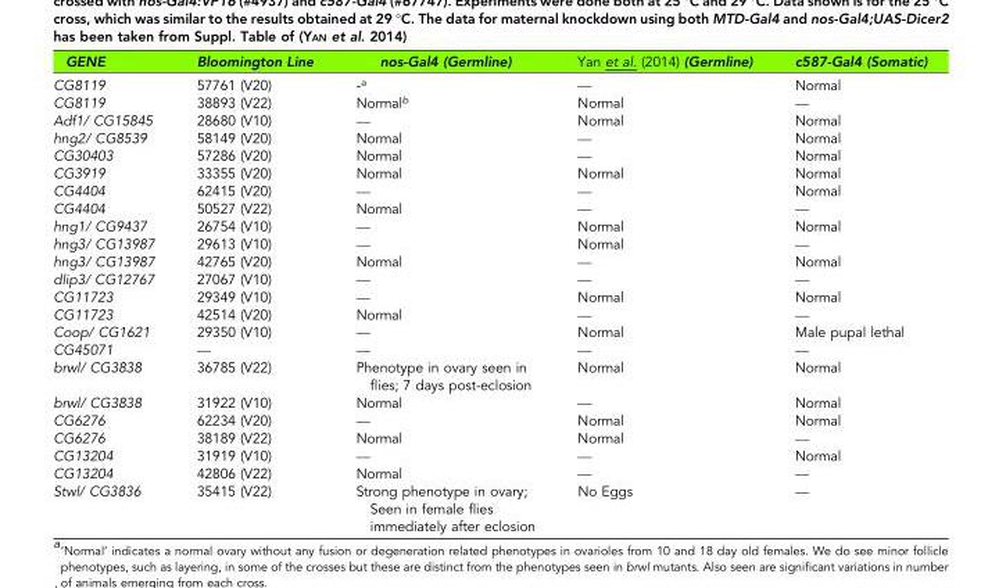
<table><thead><tr><td>GENE</td><td>Bloomington Line</td><td>nos-Gal4 (Germline)</td><td>Yan et al. (2014) (Germline)</td><td>c587-Gal4 (Somatic)</td></tr></thead><tbody><tr><td>CG8119</td><td>57761 (V20)</td><td>-<sup>a</sup></td><td>—</td><td>Normal</td></tr><tr><td>CG8119</td><td>38893 (V22)</td><td>Normal<sup>b</sup></td><td>Normal</td><td>—</td></tr><tr><td>Adf1/ CG15845</td><td>28680 (V10)</td><td>—</td><td>Normal</td><td>Normal</td></tr><tr><td>hng2/ CG8539</td><td>58149 (V20)</td><td>Normal</td><td>—</td><td>Normal</td></tr><tr><td>CG30403</td><td>57286 (V20)</td><td>Normal</td><td>—</td><td>Normal</td></tr><tr><td>CG3919</td><td>33355 (V20)</td><td>Normal</td><td>Normal</td><td>Normal</td></tr><tr><td>CG4404</td><td>62415 (V20)</td><td>—</td><td>—</td><td>Normal</td></tr><tr><td>CG4404</td><td>50527 (V22)</td><td>Normal</td><td>—</td><td>—</td></tr><tr><td>hng1/ CG9437</td><td>26754 (V10)</td><td>—</td><td>Normal</td><td>Normal</td></tr><tr><td>hng3/ CG13987</td><td>29613 (V10)</td><td>—</td><td>Normal</td><td>—</td></tr><tr><td>hng3/ CG13987</td><td>42765 (V20)</td><td>Normal</td><td>—</td><td>Normal</td></tr><tr><td>dlip3/ CG12767</td><td>27067 (V10)</td><td>—</td><td>—</td><td>—</td></tr><tr><td>CG11723</td><td>29349 (V10)</td><td>—</td><td>Normal</td><td>Normal</td></tr><tr><td>CG11723</td><td>42514 (V20)</td><td>Normal</td><td>—</td><td>—</td></tr><tr><td>Coop/ CG1621</td><td>29350 (V10)</td><td>—</td><td>Normal</td><td>Male pupal lethal</td></tr><tr><td>CG45071</td><td>—</td><td>—</td><td>—</td><td>—</td></tr><tr><td>brwl/ CG3838</td><td>36785 (V22)</td><td>Phenotype in ovary seen in flies; 7 days post-eclosion</td><td>Normal</td><td>Normal</td></tr><tr><td>brwl/ CG3838</td><td>31922 (V10)</td><td>Normal</td><td>—</td><td>Normal</td></tr><tr><td>CG6276</td><td>62234 (V20)</td><td>—</td><td>Normal</td><td>Normal</td></tr><tr><td>CG6276</td><td>38189 (V22)</td><td>Normal</td><td>Normal</td><td>—</td></tr><tr><td>CG13204</td><td>31919 (V10)</td><td>—</td><td>—</td><td>Normal</td></tr><tr><td>CG13204</td><td>42806 (V22)</td><td>Normal</td><td>—</td><td>—</td></tr><tr><td>Stwl/ CG3836</td><td>35415 (V22)</td><td>Strong phenotype in ovary; Seen in female flies immediately after eclosion</td><td>No Eggs</td><td>—</td></tr></tbody></table>